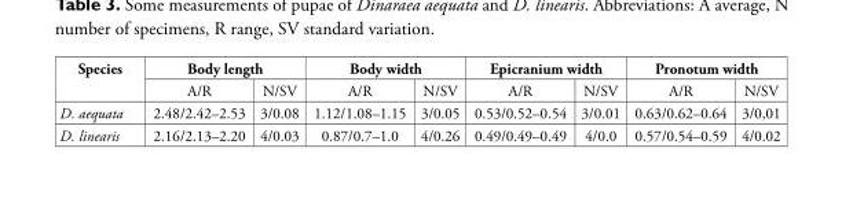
<table><tbody><tr><td rowspan="2">Species</td><td colspan="2">Body length</td><td colspan="2">Body width</td><td colspan="2">Epicranium width</td><td colspan="2">Pronotum width</td></tr><tr><td>A/R</td><td>N/SV</td><td>A/R</td><td>N/SV</td><td>A/R</td><td>N/SV</td><td>A/R</td><td>N/SV</td></tr><tr><td>D. aequata</td><td>2.48/2.42–2.53</td><td>3/0.08</td><td>1.12/1.08–1.15</td><td>3/0.05</td><td>0.53/0.52–0.54</td><td>3/0.01</td><td>0.63/0.62–0.64</td><td>3/0,01</td></tr><tr><td>D. linearis</td><td>2.16/2.13–2.20</td><td>4/0.03</td><td>0.87/0.7–1.0</td><td>4/0.26</td><td>0.49/0.49–0.49</td><td>4/0.0</td><td>0.57/0.54–0.59</td><td>4/0.02</td></tr></tbody></table>